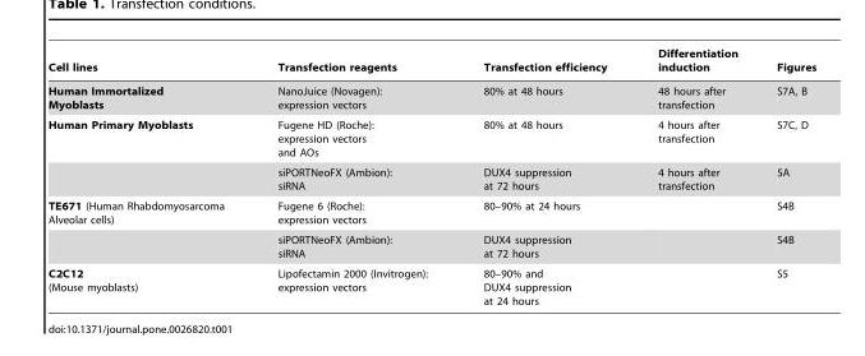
<table><thead><tr><td>Cell lines</td><td>Transfection reagents</td><td>Transfection efficiency</td><td>Differentiation induction</td><td>Figures</td></tr></thead><tbody><tr><td>Human Immortalized Myoblasts</td><td>NanoJuice (Novagen): expression vectors</td><td>80% at 48 hours</td><td>48 hours after transfection</td><td>S7A, B</td></tr><tr><td rowspan="2">Human Primary Myoblasts</td><td>Fugene HD (Roche): expression vectors and AOs</td><td>80% at 48 hours</td><td>4 hours after transfection</td><td>S7C, D</td></tr><tr><td>siPORTNeoFX (Ambion): siRNA</td><td>DUX4 suppression at 72 hours</td><td>4 hours after transfection</td><td>5A</td></tr><tr><td rowspan="2">TE671 (Human Rhabdomyosarcoma Alveolar cells)</td><td>Fugene 6 (Roche): expression vectors</td><td>80–90% at 24 hours</td><td></td><td>S4B</td></tr><tr><td>siPORTNeoFX (Ambion): siRNA</td><td>DUX4 suppression at 72 hours</td><td></td><td>S4B</td></tr><tr><td>C2C12 (Mouse myoblasts)</td><td>Lipofectamin 2000 (Invitrogen): expression vectors</td><td>80–90% and DUX4 suppression at 24 hours</td><td></td><td>S5</td></tr></tbody></table>